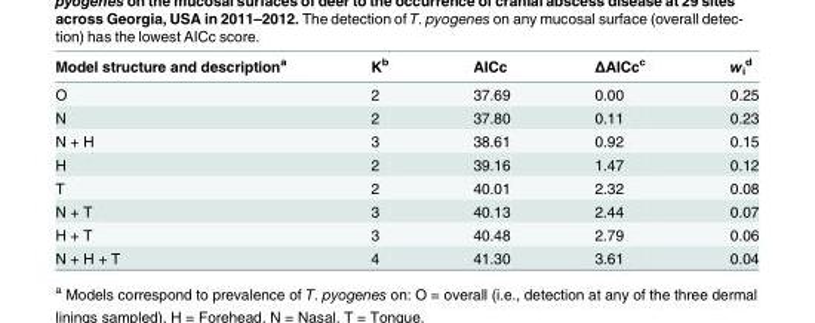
<table><thead><tr><td>Model structure and description<sup>a</sup></td><td>K<sup>b</sup></td><td>AICc</td><td>ΔAICc<sup>c</sup></td><td>w<sub>i</sub> <sup>d</sup></td></tr></thead><tbody><tr><td>O</td><td>2</td><td>37.69</td><td>0.00</td><td>0.25</td></tr><tr><td>N</td><td>2</td><td>37.80</td><td>0.11</td><td>0.23</td></tr><tr><td>N + H</td><td>3</td><td>38.61</td><td>0.92</td><td>0.15</td></tr><tr><td>H</td><td>2</td><td>39.16</td><td>1.47</td><td>0.12</td></tr><tr><td>T</td><td>2</td><td>40.01</td><td>2.32</td><td>0.08</td></tr><tr><td>N + T</td><td>3</td><td>40.13</td><td>2.44</td><td>0.07</td></tr><tr><td>H + T</td><td>3</td><td>40.48</td><td>2.79</td><td>0.06</td></tr><tr><td>N + H + T</td><td>4</td><td>41.30</td><td>3.61</td><td>0.04</td></tr></tbody></table>